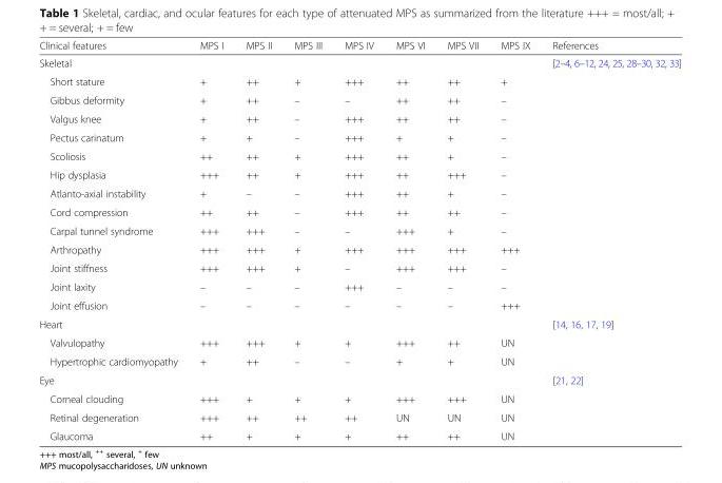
<table><thead><tr><td>Clinical features</td><td>MPS I</td><td>MPS II</td><td>MPS III</td><td>MPS IV</td><td>MPS VI</td><td>MPS VII</td><td>MPS IX</td><td>References</td></tr></thead><tbody><tr><td>Skeletal</td><td></td><td></td><td></td><td></td><td></td><td></td><td></td><td>[2–4, 6–12, 24, 25, 28–30, 32, 33]</td></tr><tr><td>Short stature</td><td>+</td><td>++</td><td>+</td><td>+++</td><td>++</td><td>++</td><td>+</td><td></td></tr><tr><td>Gibbus deformity</td><td>+</td><td>++</td><td>–</td><td>–</td><td>++</td><td>++</td><td>–</td><td></td></tr><tr><td>Valgus knee</td><td>+</td><td>++</td><td>–</td><td>+++</td><td>++</td><td>++</td><td>–</td><td></td></tr><tr><td>Pectus carinatum</td><td>+</td><td>+</td><td>–</td><td>+++</td><td>+</td><td>+</td><td>–</td><td></td></tr><tr><td>Scoliosis</td><td>++</td><td>++</td><td>+</td><td>+++</td><td>++</td><td>+</td><td>–</td><td></td></tr><tr><td>Hip dysplasia</td><td>+++</td><td>++</td><td>+</td><td>+++</td><td>++</td><td>+++</td><td>–</td><td></td></tr><tr><td>Atlanto-axial instability</td><td>+</td><td>–</td><td>–</td><td>+++</td><td>++</td><td>+</td><td>–</td><td></td></tr><tr><td>Cord compression</td><td>++</td><td>++</td><td>–</td><td>+++</td><td>++</td><td>++</td><td>–</td><td></td></tr><tr><td>Carpal tunnel syndrome</td><td>+++</td><td>+++</td><td>–</td><td>–</td><td>+++</td><td>+</td><td>–</td><td></td></tr><tr><td>Arthropathy</td><td>+++</td><td>+++</td><td>+</td><td>+++</td><td>+++</td><td>+++</td><td>+++</td><td></td></tr><tr><td>Joint stiffness</td><td>+++</td><td>+++</td><td>+</td><td>–</td><td>+++</td><td>+++</td><td>–</td><td></td></tr><tr><td>Joint laxity</td><td>–</td><td>–</td><td>–</td><td>+++</td><td>–</td><td>–</td><td>–</td><td></td></tr><tr><td>Joint effusion</td><td>–</td><td>–</td><td>–</td><td>–</td><td>–</td><td>–</td><td>+++</td><td></td></tr><tr><td>Heart</td><td></td><td></td><td></td><td></td><td></td><td></td><td></td><td>[14, 16, 17, 19]</td></tr><tr><td>Valvulopathy</td><td>+++</td><td>+++</td><td>+</td><td>+</td><td>+++</td><td>++</td><td>UN</td><td></td></tr><tr><td>Hypertrophic cardiomyopathy</td><td>+</td><td>++</td><td>–</td><td>–</td><td>+</td><td>+</td><td>UN</td><td></td></tr><tr><td>Eye</td><td></td><td></td><td></td><td></td><td></td><td></td><td></td><td>[21, 22]</td></tr><tr><td>Corneal clouding</td><td>+++</td><td>+</td><td>+</td><td>+</td><td>+++</td><td>+++</td><td>UN</td><td></td></tr><tr><td>Retinal degeneration</td><td>+++</td><td>++</td><td>++</td><td>++</td><td>UN</td><td>UN</td><td>UN</td><td></td></tr><tr><td>Glaucoma</td><td>++</td><td>+</td><td>+</td><td>+</td><td>++</td><td>++</td><td>UN</td><td></td></tr></tbody></table>